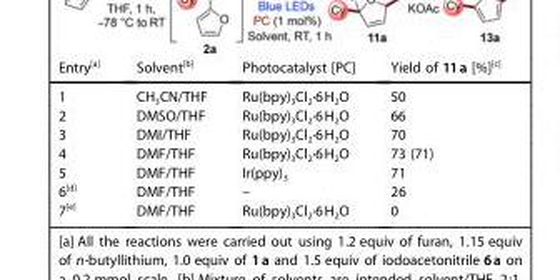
<table><thead><tr><td>Entry<sup>[a]</sup></td><td>Solvent<sup>[b]</sup></td><td>Photocatalyst [PC]</td><td>Yield of 11a [%]<sup>[c]</sup></td></tr></thead><tbody><tr><td>1</td><td>CH<sub>3</sub>CN/THF</td><td>Ru(bpy)3Cl2·6H2O</td><td>50</td></tr><tr><td>2</td><td>DMSO/THF</td><td>Ru(bpy)3Cl2·6H2O</td><td>66</td></tr><tr><td>3</td><td>DMI/THF</td><td>Ru(bpy)3Cl2·6H2O</td><td>70</td></tr><tr><td>4</td><td>DMF/THF</td><td>Ru(bpy)3Cl2·6H2O</td><td>73 (71)</td></tr><tr><td>5</td><td>DMF/THF</td><td>Ir(ppy)<sub>3</sub></td><td>71</td></tr><tr><td>6<sup>[d]</sup></td><td>DMF/THF</td><td>–</td><td>26</td></tr><tr><td>7<sup>[e]</sup></td><td>DMF/THF</td><td>Ru(bpy)3Cl2·6H2O</td><td>0</td></tr></tbody></table>